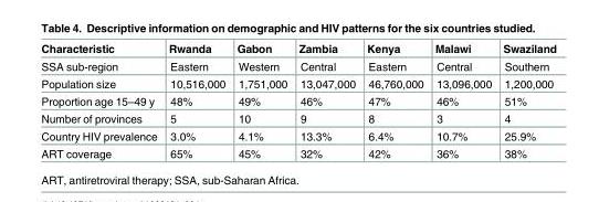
<table><thead><tr><td>Characteristic</td><td>Rwanda</td><td>Gabon</td><td>Zambia</td><td>Kenya</td><td>Malawi</td><td>Swaziland</td></tr></thead><tbody><tr><td>SSA sub-region</td><td>Eastern</td><td>Western</td><td>Central</td><td>Eastern</td><td>Central</td><td>Southern</td></tr><tr><td>Population size</td><td>10,516,000</td><td>1,751,000</td><td>13,047,000</td><td>46,760,000</td><td>13,096,000</td><td>1,200,000</td></tr><tr><td>Proportion age 15–49 y</td><td>48%</td><td>49%</td><td>46%</td><td>47%</td><td>46%</td><td>51%</td></tr><tr><td>Number of provinces</td><td>5</td><td>10</td><td>9</td><td>8</td><td>3</td><td>4</td></tr><tr><td>Country HIV prevalence</td><td>3.0%</td><td>4.1%</td><td>13.3%</td><td>6.4%</td><td>10.7%</td><td>25.9%</td></tr><tr><td>ART coverage</td><td>65%</td><td>45%</td><td>32%</td><td>42%</td><td>36%</td><td>38%</td></tr></tbody></table>